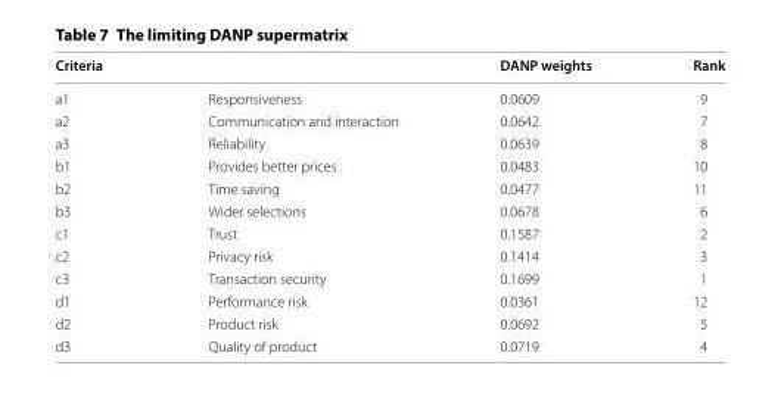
<table><thead><tr><td>Criteria</td><td></td><td>DANP weights</td><td>Rank</td></tr></thead><tbody><tr><td>a1</td><td>Responsiveness</td><td>0.0609</td><td>9</td></tr><tr><td>a2</td><td>Communication and interaction</td><td>0.0642</td><td>7</td></tr><tr><td>a3</td><td>Reliability</td><td>0.0639</td><td>8</td></tr><tr><td>b1</td><td>Provides better prices</td><td>0.0483</td><td>10</td></tr><tr><td>b2</td><td>Time saving</td><td>0.0477</td><td>11</td></tr><tr><td>b3</td><td>Wider selections</td><td>0.0678</td><td>6</td></tr><tr><td>c1</td><td>Trust</td><td>0.1587</td><td>2</td></tr><tr><td>c2</td><td>Privacy risk</td><td>0.1414</td><td>3</td></tr><tr><td>c3</td><td>Transaction security</td><td>0.1699</td><td>1</td></tr><tr><td>d1</td><td>Performance risk</td><td>0.0361</td><td>12</td></tr><tr><td>d2</td><td>Product risk</td><td>0.0692</td><td>5</td></tr><tr><td>d3</td><td>Quality of product</td><td>0.0719</td><td>4</td></tr></tbody></table>